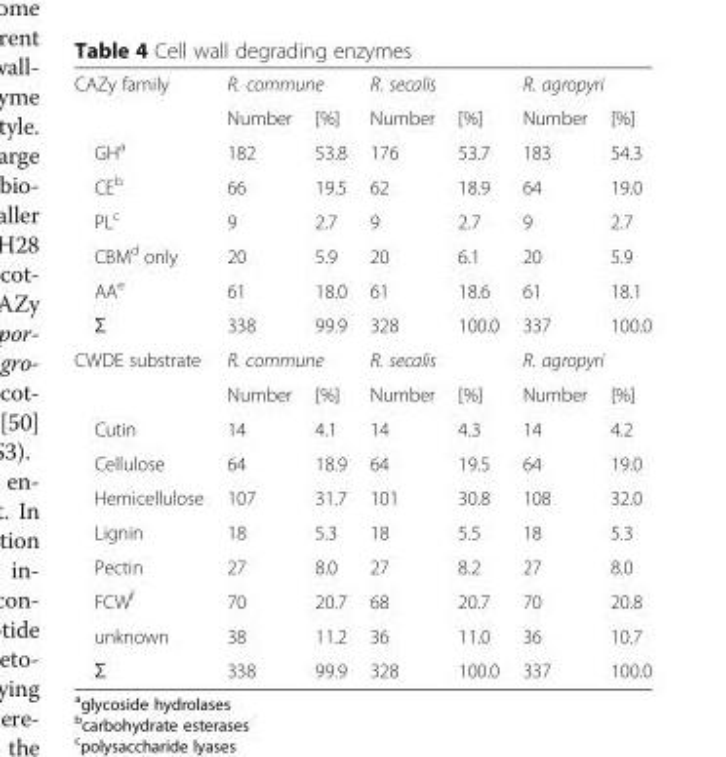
<table><tbody><tr><td rowspan="2">CAZy family</td><td colspan="2">R. commune</td><td colspan="2">R. secalis</td><td colspan="2">R. agropyri</td></tr><tr><td>Number</td><td>[%]</td><td>Number</td><td>[%]</td><td>Number</td><td>[%]</td></tr><tr><td>GH<sup>a</sup></td><td>182</td><td>53.8</td><td>176</td><td>53.7</td><td>183</td><td>54.3</td></tr><tr><td>CE<sup>b</sup></td><td>66</td><td>19.5</td><td>62</td><td>18.9</td><td>64</td><td>19.0</td></tr><tr><td>PL<sup>c</sup></td><td>9</td><td>2.7</td><td>9</td><td>2.7</td><td>9</td><td>2.7</td></tr><tr><td>CBM<sup>d</sup> only</td><td>20</td><td>5.9</td><td>20</td><td>6.1</td><td>20</td><td>5.9</td></tr><tr><td>AA<sup>e</sup></td><td>61</td><td>18.0</td><td>61</td><td>18.6</td><td>61</td><td>18.1</td></tr><tr><td>Ʃ</td><td>338</td><td>99.9</td><td>328</td><td>100.0</td><td>337</td><td>100.0</td></tr><tr><td rowspan="2">CWDE substrate</td><td colspan="2">R. commune</td><td colspan="2">R. secalis</td><td colspan="2">R. agropyri</td></tr><tr><td>Number</td><td>[%]</td><td>Number</td><td>[%]</td><td>Number</td><td>[%]</td></tr><tr><td>Cutin</td><td>14</td><td>4.1</td><td>14</td><td>4.3</td><td>14</td><td>4.2</td></tr><tr><td>Cellulose</td><td>64</td><td>18.9</td><td>64</td><td>19.5</td><td>64</td><td>19.0</td></tr><tr><td>Hemicellulose</td><td>107</td><td>31.7</td><td>101</td><td>30.8</td><td>108</td><td>32.0</td></tr><tr><td>Lignin</td><td>18</td><td>5.3</td><td>18</td><td>5.5</td><td>18</td><td>5.3</td></tr><tr><td>Pectin</td><td>27</td><td>8.0</td><td>27</td><td>8.2</td><td>27</td><td>8.0</td></tr><tr><td>FCW<sup>f</sup></td><td>70</td><td>20.7</td><td>68</td><td>20.7</td><td>70</td><td>20.8</td></tr><tr><td>unknown</td><td>38</td><td>11.2</td><td>36</td><td>11.0</td><td>36</td><td>10.7</td></tr><tr><td>Ʃ</td><td>338</td><td>99.9</td><td>328</td><td>100.0</td><td>337</td><td>100.0</td></tr></tbody></table>